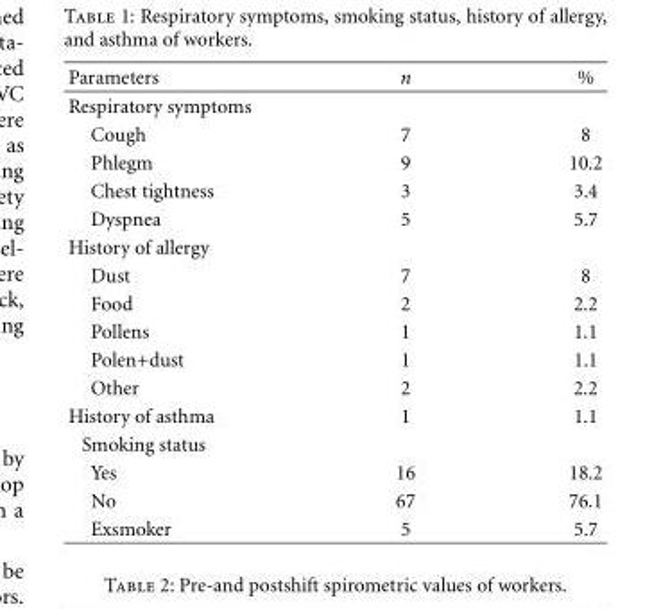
<table><thead><tr><td>Parameters</td><td>n</td><td>%</td></tr></thead><tbody><tr><td colspan="3">Respiratory symptoms</td></tr><tr><td>Cough</td><td>7</td><td>8</td></tr><tr><td>Phlegm</td><td>9</td><td>10.2</td></tr><tr><td>Chest tightness</td><td>3</td><td>3.4</td></tr><tr><td>Dyspnea</td><td>5</td><td>5.7</td></tr><tr><td colspan="3">History of allergy</td></tr><tr><td>Dust</td><td>7</td><td>8</td></tr><tr><td>Food</td><td>2</td><td>2.2</td></tr><tr><td>Pollens</td><td>1</td><td>1.1</td></tr><tr><td>Polen+dust</td><td>1</td><td>1.1</td></tr><tr><td>Other</td><td>2</td><td>2.2</td></tr><tr><td>History of asthma</td><td>1</td><td>1.1</td></tr><tr><td colspan="3">Smoking status</td></tr><tr><td>Yes</td><td>16</td><td>18.2</td></tr><tr><td>No</td><td>67</td><td>76.1</td></tr><tr><td>Exsmoker</td><td>5</td><td>5.7</td></tr></tbody></table>